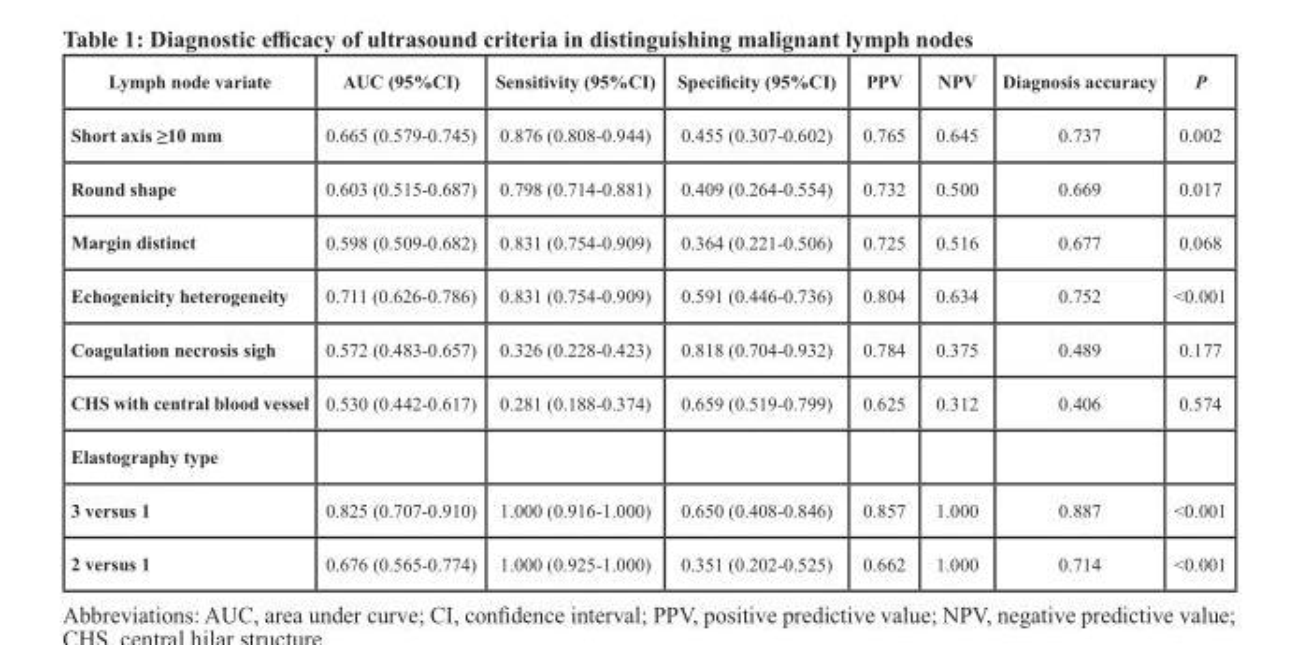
<table><thead><tr><td>Lymph node variate</td><td>AUC (95%CI)</td><td>Sensitivity (95%CI)</td><td>Specificity (95%CI)</td><td>PPV</td><td>NPV</td><td>Diagnosis accuracy</td><td>P</td></tr></thead><tbody><tr><td>Short axis ≥10 mm</td><td>0.665 (0.579-0.745)</td><td>0.876 (0.808-0.944)</td><td>0.455 (0.307-0.602)</td><td>0.765</td><td>0.645</td><td>0.737</td><td>0.002</td></tr><tr><td>Round shape</td><td>0.603 (0.515-0.687)</td><td>0.798 (0.714-0.881)</td><td>0.409 (0.264-0.554)</td><td>0.732</td><td>0.500</td><td>0.669</td><td>0.017</td></tr><tr><td>Margin distinct</td><td>0.598 (0.509-0.682)</td><td>0.831 (0.754-0.909)</td><td>0.364 (0.221-0.506)</td><td>0.725</td><td>0.516</td><td>0.677</td><td>0.068</td></tr><tr><td>Echogenicity heterogeneity</td><td>0.711 (0.626-0.786)</td><td>0.831 (0.754-0.909)</td><td>0.591 (0.446-0.736)</td><td>0.804</td><td>0.634</td><td>0.752</td><td>&lt;0.001</td></tr><tr><td>Coagulation necrosis sigh</td><td>0.572 (0.483-0.657)</td><td>0.326 (0.228-0.423)</td><td>0.818 (0.704-0.932)</td><td>0.784</td><td>0.375</td><td>0.489</td><td>0.177</td></tr><tr><td>CHS with central blood vessel</td><td>0.530 (0.442-0.617)</td><td>0.281 (0.188-0.374)</td><td>0.659 (0.519-0.799)</td><td>0.625</td><td>0.312</td><td>0.406</td><td>0.574</td></tr><tr><td colspan="8">Elastography type</td></tr><tr><td>3 versus 1</td><td>0.825 (0.707-0.910)</td><td>1.000 (0.916-1.000)</td><td>0.650 (0.408-0.846)</td><td>0.857</td><td>1.000</td><td>0.887</td><td>&lt;0.001</td></tr><tr><td>2 versus 1</td><td>0.676 (0.565-0.774)</td><td>1.000 (0.925-1.000)</td><td>0.351 (0.202-0.525)</td><td>0.662</td><td>1.000</td><td>0.714</td><td>&lt;0.001</td></tr></tbody></table>